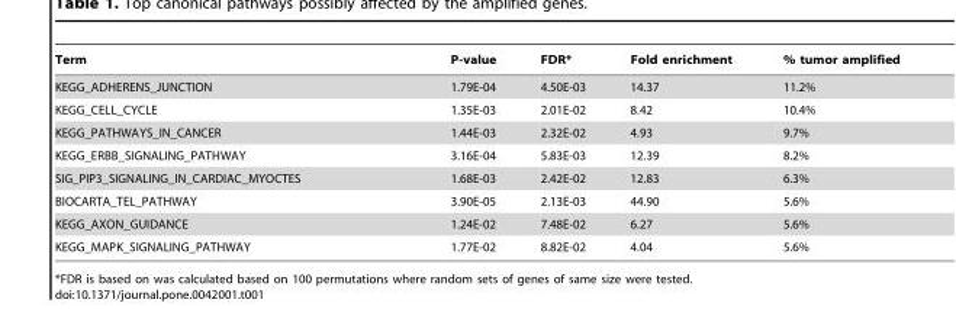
<table><thead><tr><td>Term</td><td>P-value</td><td>FDR*</td><td>Fold enrichment</td><td>% tumor amplified</td></tr></thead><tbody><tr><td>KEGG_ADHERENS_JUNCTION</td><td>1.79E-04</td><td>4.50E-03</td><td>14.37</td><td>11.2%</td></tr><tr><td>KEGG_CELL_CYCLE</td><td>1.35E-03</td><td>2.01E-02</td><td>8.42</td><td>10.4%</td></tr><tr><td>KEGG_PATHWAYS_IN_CANCER</td><td>1.44E-03</td><td>2.32E-02</td><td>4.93</td><td>9.7%</td></tr><tr><td>KEGG_ERBB_SIGNALING_PATHWAY</td><td>3.16E-04</td><td>5.83E-03</td><td>12.39</td><td>8.2%</td></tr><tr><td>SIG_PIP3_SIGNALING_IN_CARDIAC_MYOCTES</td><td>1.68E-03</td><td>2.42E-02</td><td>12.83</td><td>6.3%</td></tr><tr><td>BIOCARTA_TEL_PATHWAY</td><td>3.90E-05</td><td>2.13E-03</td><td>44.90</td><td>5.6%</td></tr><tr><td>KEGG_AXON_GUIDANCE</td><td>1.24E-02</td><td>7.48E-02</td><td>6.27</td><td>5.6%</td></tr><tr><td>KEGG_MAPK_SIGNALING_PATHWAY</td><td>1.77E-02</td><td>8.82E-02</td><td>4.04</td><td>5.6%</td></tr></tbody></table>